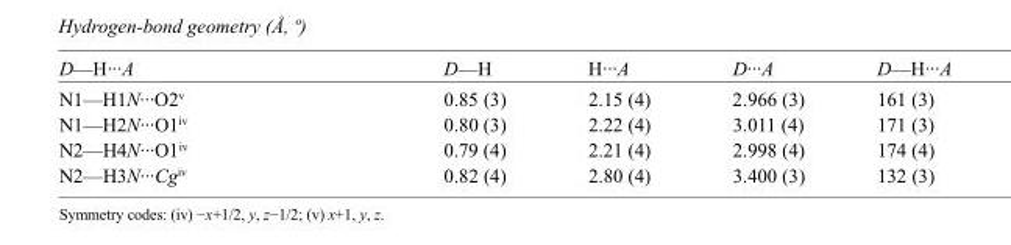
<table><tbody><tr><td>D—H···A</td><td>D—H</td><td>H···A</td><td>D···A</td><td>D—H···A</td></tr><tr><td>N1—H1N···O2<sup>v</sup></td><td>0.85 (3)</td><td>2.15 (4)</td><td>2.966 (3)</td><td>161 (3)</td></tr><tr><td>N1—H2N···O1<sup>iv</sup></td><td>0.80 (3)</td><td>2.22 (4)</td><td>3.011 (4)</td><td>171 (3)</td></tr><tr><td>N2—H4N···O1<sup>iv</sup></td><td>0.79 (4)</td><td>2.21 (4)</td><td>2.998 (4)</td><td>174 (4)</td></tr><tr><td>N2—H3N···Cg<sup>iv</sup></td><td>0.82 (4)</td><td>2.80 (4)</td><td>3.400 (3)</td><td>132 (3)</td></tr></tbody></table>